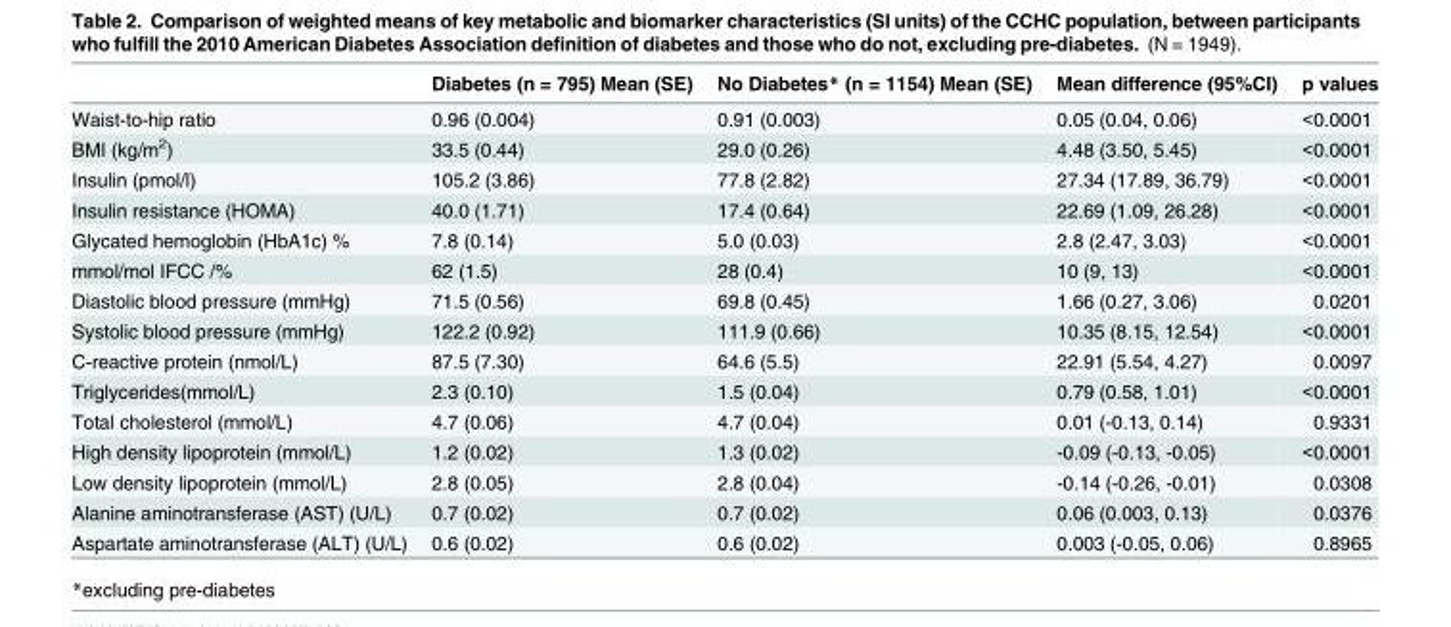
<table><thead><tr><td></td><td>Diabetes (n = 795) Mean (SE)</td><td>No Diabetes* (n = 1154) Mean (SE)</td><td>Mean difference (95%CI)</td><td>p values</td></tr></thead><tbody><tr><td>Waist-to-hip ratio</td><td>0.96 (0.004)</td><td>0.91 (0.003)</td><td>0.05 (0.04, 0.06)</td><td>&lt;0.0001</td></tr><tr><td>BMI (kg/m<sup>2</sup>)</td><td>33.5 (0.44)</td><td>29.0 (0.26)</td><td>4.48 (3.50, 5.45)</td><td>&lt;0.0001</td></tr><tr><td>Insulin (pmol/l)</td><td>105.2 (3.86)</td><td>77.8 (2.82)</td><td>27.34 (17.89, 36.79)</td><td>&lt;0.0001</td></tr><tr><td>Insulin resistance (HOMA)</td><td>40.0 (1.71)</td><td>17.4 (0.64)</td><td>22.69 (1.09, 26.28)</td><td>&lt;0.0001</td></tr><tr><td>Glycated hemoglobin (HbA1c) %</td><td>7.8 (0.14)</td><td>5.0 (0.03)</td><td>2.8 (2.47, 3.03)</td><td>&lt;0.0001</td></tr><tr><td>mmol/mol IFCC /%</td><td>62 (1.5)</td><td>28 (0.4)</td><td>10 (9, 13)</td><td>&lt;0.0001</td></tr><tr><td>Diastolic blood pressure (mmHg)</td><td>71.5 (0.56)</td><td>69.8 (0.45)</td><td>1.66 (0.27, 3.06)</td><td>0.0201</td></tr><tr><td>Systolic blood pressure (mmHg)</td><td>122.2 (0.92)</td><td>111.9 (0.66)</td><td>10.35 (8.15, 12.54)</td><td>&lt;0.0001</td></tr><tr><td>C-reactive protein (nmol/L)</td><td>87.5 (7.30)</td><td>64.6 (5.5)</td><td>22.91 (5.54, 4.27)</td><td>0.0097</td></tr><tr><td>Triglycerides(mmol/L)</td><td>2.3 (0.10)</td><td>1.5 (0.04)</td><td>0.79 (0.58, 1.01)</td><td>&lt;0.0001</td></tr><tr><td>Total cholesterol (mmol/L)</td><td>4.7 (0.06)</td><td>4.7 (0.04)</td><td>0.01 (-0.13, 0.14)</td><td>0.9331</td></tr><tr><td>High density lipoprotein (mmol/L)</td><td>1.2 (0.02)</td><td>1.3 (0.02)</td><td>-0.09 (-0.13, -0.05)</td><td>&lt;0.0001</td></tr><tr><td>Low density lipoprotein (mmol/L)</td><td>2.8 (0.05)</td><td>2.8 (0.04)</td><td>-0.14 (-0.26, -0.01)</td><td>0.0308</td></tr><tr><td>Alanine aminotransferase (AST) (U/L)</td><td>0.7 (0.02)</td><td>0.7 (0.02)</td><td>0.06 (0.003, 0.13)</td><td>0.0376</td></tr><tr><td>Aspartate aminotransferase (ALT) (U/L)</td><td>0.6 (0.02)</td><td>0.6 (0.02)</td><td>0.003 (-0.05, 0.06)</td><td>0.8965</td></tr></tbody></table>